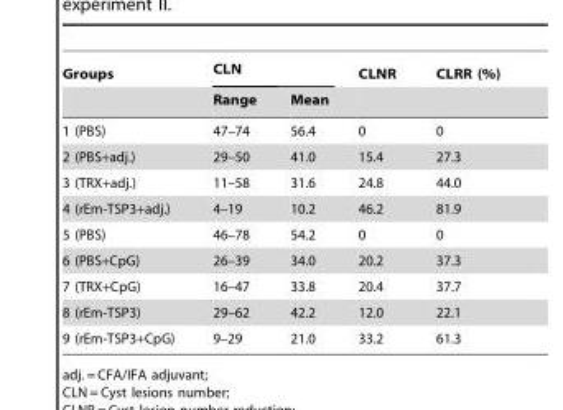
<table><thead><tr><td rowspan="2">Groups</td><td rowspan="2">CLN Range</td><td rowspan="2">Mean</td><td rowspan="2">CLNR</td><td rowspan="2">CLRR (%)</td></tr><tr></tr></thead><tbody><tr><td>1 (PBS)</td><td>47–74</td><td>56.4</td><td>0</td><td>0</td></tr><tr><td>2 (PBS+adj.)</td><td>29–50</td><td>41.0</td><td>15.4</td><td>27.3</td></tr><tr><td>3 (TRX+adj.)</td><td>11–58</td><td>31.6</td><td>24.8</td><td>44.0</td></tr><tr><td>4 (rEm-TSP3+adj.)</td><td>4–19</td><td>10.2</td><td>46.2</td><td>81.9</td></tr><tr><td>5 (PBS)</td><td>46–78</td><td>54.2</td><td>0</td><td>0</td></tr><tr><td>6 (PBS+CpG)</td><td>26–39</td><td>34.0</td><td>20.2</td><td>37.3</td></tr><tr><td>7 (TRX+CpG)</td><td>16–47</td><td>33.8</td><td>20.4</td><td>37.7</td></tr><tr><td>8 (rEm-TSP3)</td><td>29–62</td><td>42.2</td><td>12.0</td><td>22.1</td></tr><tr><td>9 (rEm-TSP3+CpG)</td><td>9–29</td><td>21.0</td><td>33.2</td><td>61.3</td></tr></tbody></table>